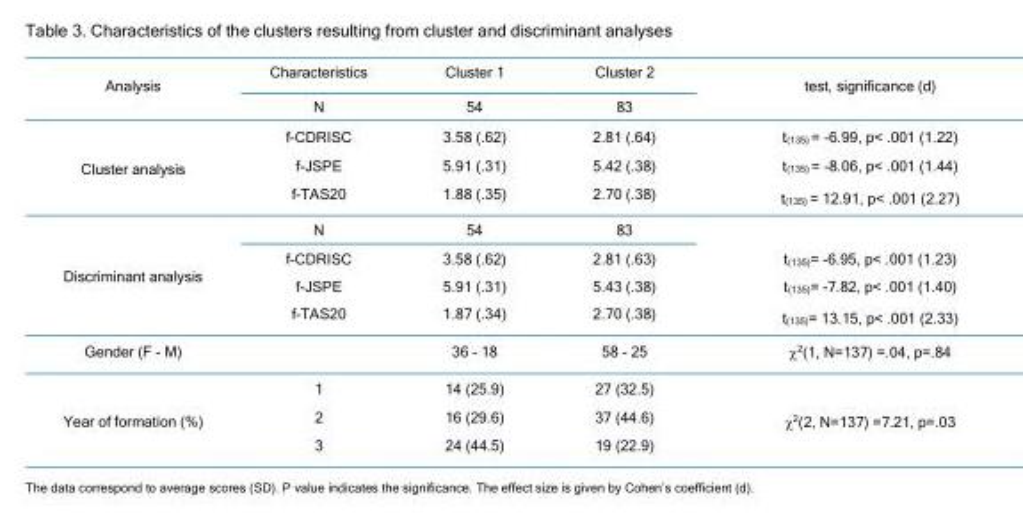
<table><thead><tr><td rowspan="2">Analysis</td><td rowspan="2">Characteristics N</td><td rowspan="2">Cluster 1 54</td><td rowspan="2">Cluster 2 83</td><td rowspan="2">test, significance (d)</td></tr><tr></tr></thead><tbody><tr><td rowspan="3">Cluster analysis</td><td>f-CDRISC</td><td>3.58 (.62)</td><td>2.81 (.64)</td><td>t<sub>(135)</sub> = -6.99, p&lt; .001 (1.22)</td></tr><tr><td>f-JSPE</td><td>5.91 (.31)</td><td>5.42 (.38)</td><td>t<sub>(135)</sub> = -8.06, p&lt; .001 (1.44)</td></tr><tr><td>f-TAS20</td><td>1.88 (.35)</td><td>2.70 (.38)</td><td>t<sub>(135)</sub> = 12.91, p&lt; .001 (2.27)</td></tr><tr><td rowspan="4">Discriminant analysis</td><td>N</td><td>54</td><td>83</td><td></td></tr><tr><td>f-CDRISC</td><td>3.58 (.62)</td><td>2.81 (.63)</td><td>t<sub>(135)</sub>= -6.95, p&lt; .001 (1.23)</td></tr><tr><td>f-JSPE</td><td>5.91 (.31)</td><td>5.43 (.38)</td><td>t<sub>(135)</sub>= -7.82, p&lt; .001 (1.40)</td></tr><tr><td>f-TAS20</td><td>1.87 (.34)</td><td>2.70 (.38)</td><td>t<sub>(135)</sub>= 13.15, p&lt; .001 (2.33)</td></tr><tr><td>Gender (F - M)</td><td></td><td>36 - 18</td><td>58 - 25</td><td>χ<sup>2</sup>(1, N=137) =.04, p=.84</td></tr><tr><td rowspan="3">Year of formation (%)</td><td>1</td><td>14 (25.9)</td><td>27 (32.5)</td><td rowspan="3">χ<sup>2</sup>(2, N=137) =7.21, p=.03</td></tr><tr><td>2</td><td>16 (29.6)</td><td>37 (44.6)</td></tr><tr><td>3</td><td>24 (44.5)</td><td>19 (22.9)</td></tr></tbody></table>